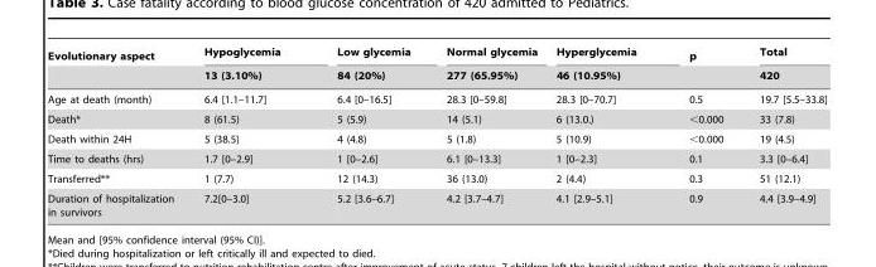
<table><thead><tr><td rowspan="2">Evolutionary aspect</td><td rowspan="2">Hypoglycemia 13 (3.10%)</td><td rowspan="2">Low glycemia 84 (20%)</td><td rowspan="2">Normal glycemia 277 (65.95%)</td><td rowspan="2">Hyperglycemia 46 (10.95%)</td><td rowspan="2">p</td><td rowspan="2">Total 420</td></tr><tr></tr></thead><tbody><tr><td>Age at death (month)</td><td>6.4 [1.1–11.7]</td><td>6.4 [0–16.5]</td><td>28.3 [0–59.8]</td><td>28.3 [0–70.7]</td><td>0.5</td><td>19.7 [5.5–33.8]</td></tr><tr><td>Death*</td><td>8 (61.5)</td><td>5 (5.9)</td><td>14 (5.1)</td><td>6 (13.0.)</td><td>&lt;0.000</td><td>33 (7.8)</td></tr><tr><td>Death within 24H</td><td>5 (38.5)</td><td>4 (4.8)</td><td>5 (1.8)</td><td>5 (10.9)</td><td>&lt;0.000</td><td>19 (4.5)</td></tr><tr><td>Time to deaths (hrs)</td><td>1.7 [0–2.9]</td><td>1 [0–2.6]</td><td>6.1 [0–13.3]</td><td>1 [0–2.3]</td><td>0.1</td><td>3.3 [0–6.4]</td></tr><tr><td>Transferred**</td><td>1 (7.7)</td><td>12 (14.3)</td><td>36 (13.0)</td><td>2 (4.4)</td><td>0.3</td><td>51 (12.1)</td></tr><tr><td>Duration of hospitalization in survivors</td><td>7.2[0–3.0]</td><td>5.2 [3.6–6.7]</td><td>4.2 [3.7–4.7]</td><td>4.1 [2.9–5.1]</td><td>0.9</td><td>4.4 [3.9–4.9]</td></tr></tbody></table>